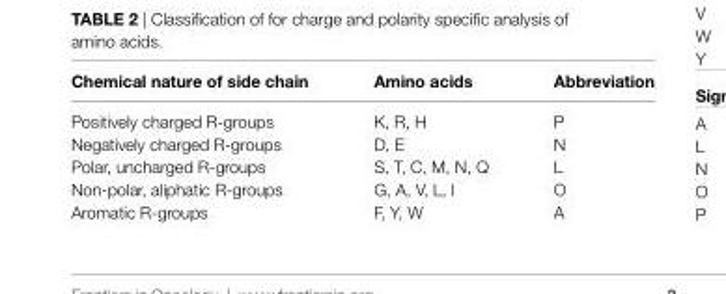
<table><thead><tr><td>chemical nature of side chain</td><td>amino acids</td><td>abbreviation</td></tr></thead><tbody><tr><td>Positively charged R-groups</td><td>K, R, H</td><td>P</td></tr><tr><td>Negatively charged R-groups</td><td>D, E</td><td>N</td></tr><tr><td>Polar, uncharged R-groups</td><td>S, T, C, M, N, Q</td><td>L</td></tr><tr><td>Non-polar, aliphatic R-groups</td><td>G, A, V, L, I</td><td>O</td></tr><tr><td>Aromatic R-groups</td><td>F, Y, W</td><td>A</td></tr></tbody></table>